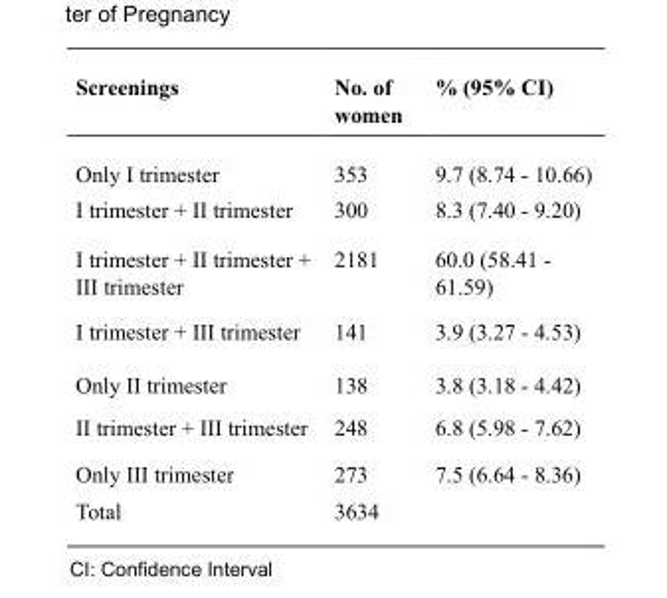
<table><thead><tr><td>Screenings</td><td>No. of women</td><td>% (95% CI)</td></tr></thead><tbody><tr><td>Only I trimester</td><td>353</td><td>9.7 (8.74 - 10.66)</td></tr><tr><td>I trimester + II trimester</td><td>300</td><td>8.3 (7.40 - 9.20)</td></tr><tr><td>I trimester + II trimester + III trimester</td><td>2181</td><td>60.0 (58.41 - 61.59)</td></tr><tr><td>I trimester + III trimester</td><td>141</td><td>3.9 (3.27 - 4.53)</td></tr><tr><td>Only II trimester</td><td>138</td><td>3.8 (3.18 - 4.42)</td></tr><tr><td>II trimester + III trimester</td><td>248</td><td>6.8 (5.98 - 7.62)</td></tr><tr><td>Only III trimester</td><td>273</td><td>7.5 (6.64 - 8.36)</td></tr><tr><td>Total</td><td>3634</td><td></td></tr></tbody></table>